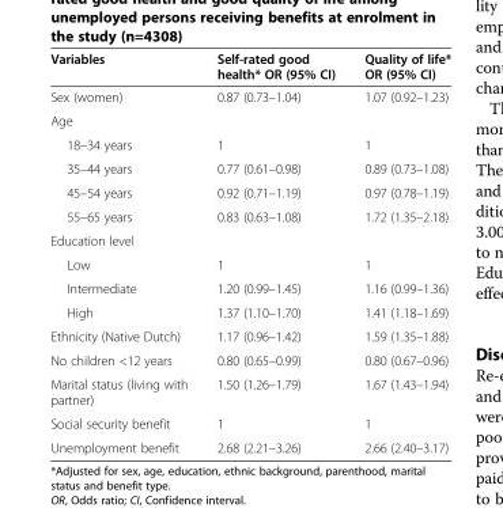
<table><thead><tr><td>Variables</td><td>Self-rated good health* OR (95% CI)</td><td>Quality of life* OR (95% CI)</td></tr></thead><tbody><tr><td>Sex (women)</td><td>0.87 (0.73–1.04)</td><td>1.07 (0.92–1.23)</td></tr><tr><td colspan="3">Age</td></tr><tr><td>18–34 years</td><td>1</td><td>1</td></tr><tr><td>35–44 years</td><td>0.77 (0.61–0.98)</td><td>0.89 (0.73–1.08)</td></tr><tr><td>45–54 years</td><td>0.92 (0.71–1.19)</td><td>0.97 (0.78–1.19)</td></tr><tr><td>55–65 years</td><td>0.83 (0.63–1.08)</td><td>1.72 (1.35–2.18)</td></tr><tr><td colspan="3">Education level</td></tr><tr><td>Low</td><td>1</td><td>1</td></tr><tr><td>Intermediate</td><td>1.20 (0.99–1.45)</td><td>1.16 (0.99–1.36)</td></tr><tr><td>High</td><td>1.37 (1.10–1.70)</td><td>1.41 (1.18–1.69)</td></tr><tr><td>Ethnicity (Native Dutch)</td><td>1.17 (0.96–1.42)</td><td>1.59 (1.35–1.88)</td></tr><tr><td>No children &lt;12 years</td><td>0.80 (0.65–0.99)</td><td>0.80 (0.67–0.96)</td></tr><tr><td>Marital status (living with partner)</td><td>1.50 (1.26–1.79)</td><td>1.67 (1.43–1.94)</td></tr><tr><td>Social security benefit</td><td>1</td><td>1</td></tr><tr><td>Unemployment benefit</td><td>2.68 (2.21–3.26)</td><td>2.66 (2.40–3.17)</td></tr></tbody></table>